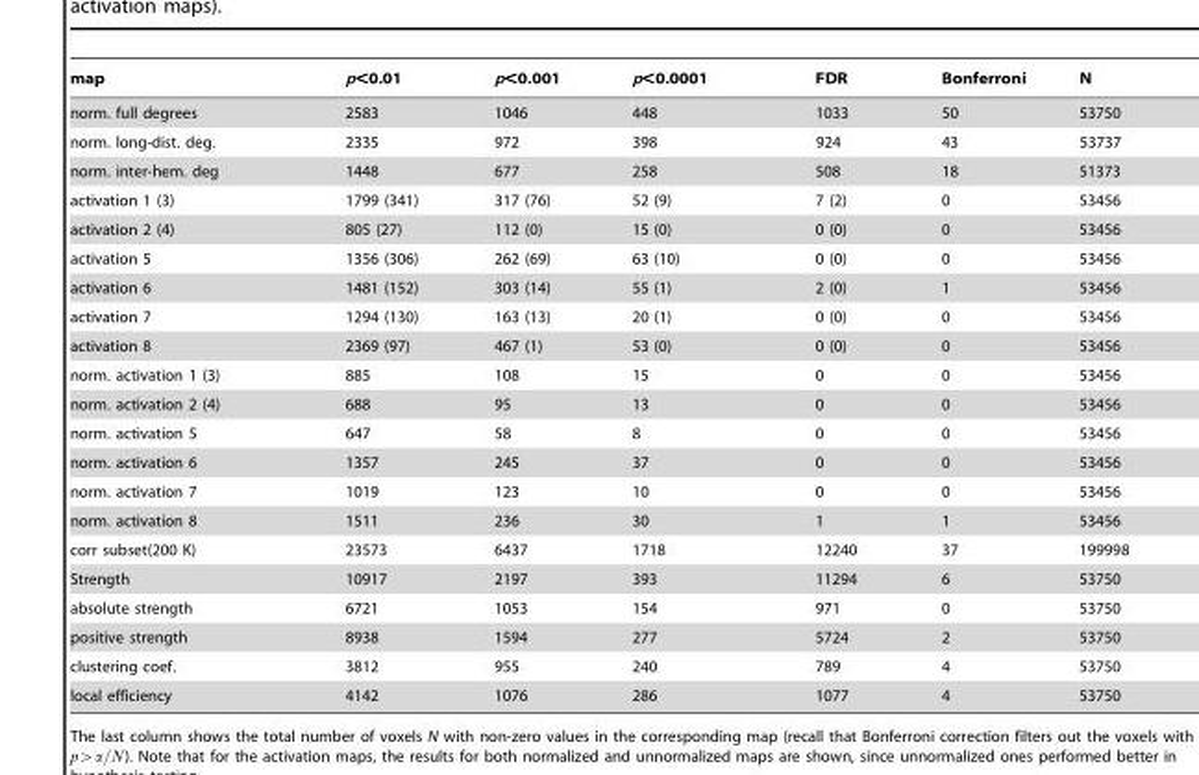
<table><thead><tr><td>map</td><td>p&lt;0.01</td><td>p&lt;0.001</td><td>p&lt;0.0001</td><td>FDR</td><td>Bonferroni</td><td>N</td></tr></thead><tbody><tr><td>norm. full degrees</td><td>2583</td><td>1046</td><td>448</td><td>1033</td><td>50</td><td>53750</td></tr><tr><td>norm. long-dist. deg.</td><td>2335</td><td>972</td><td>398</td><td>924</td><td>43</td><td>53737</td></tr><tr><td>norm. inter-hem. deg</td><td>1448</td><td>677</td><td>258</td><td>508</td><td>18</td><td>51373</td></tr><tr><td>activation 1 (3)</td><td>1799 (341)</td><td>317 (76)</td><td>52 (9)</td><td>7 (2)</td><td>0</td><td>53456</td></tr><tr><td>activation 2 (4)</td><td>805 (27)</td><td>112 (0)</td><td>15 (0)</td><td>0 (0)</td><td>0</td><td>53456</td></tr><tr><td>activation 5</td><td>1356 (306)</td><td>262 (69)</td><td>63 (10)</td><td>0 (0)</td><td>0</td><td>53456</td></tr><tr><td>activation 6</td><td>1481 (152)</td><td>303 (14)</td><td>55 (1)</td><td>2 (0)</td><td>1</td><td>53456</td></tr><tr><td>activation 7</td><td>1294 (130)</td><td>163 (13)</td><td>20 (1)</td><td>0 (0)</td><td>0</td><td>53456</td></tr><tr><td>activation 8</td><td>2369 (97)</td><td>467 (1)</td><td>53 (0)</td><td>0 (0)</td><td>0</td><td>53456</td></tr><tr><td>norm. activation 1 (3)</td><td>885</td><td>108</td><td>15</td><td>0</td><td>0</td><td>53456</td></tr><tr><td>norm. activation 2 (4)</td><td>688</td><td>95</td><td>13</td><td>0</td><td>0</td><td>53456</td></tr><tr><td>norm. activation 5</td><td>647</td><td>58</td><td>8</td><td>0</td><td>0</td><td>53456</td></tr><tr><td>norm. activation 6</td><td>1357</td><td>245</td><td>37</td><td>0</td><td>0</td><td>53456</td></tr><tr><td>norm. activation 7</td><td>1019</td><td>123</td><td>10</td><td>0</td><td>0</td><td>53456</td></tr><tr><td>norm. activation 8</td><td>1511</td><td>236</td><td>30</td><td>1</td><td>1</td><td>53456</td></tr><tr><td>corr subset(200 K)</td><td>23573</td><td>6437</td><td>1718</td><td>12240</td><td>37</td><td>199998</td></tr><tr><td>Strength</td><td>10917</td><td>2197</td><td>393</td><td>11294</td><td>6</td><td>53750</td></tr><tr><td>absolute strength</td><td>6721</td><td>1053</td><td>154</td><td>971</td><td>0</td><td>53750</td></tr><tr><td>positive strength</td><td>8938</td><td>1594</td><td>277</td><td>5724</td><td>2</td><td>53750</td></tr><tr><td>clustering coef.</td><td>3812</td><td>955</td><td>240</td><td>789</td><td>4</td><td>53750</td></tr><tr><td>local efficiency</td><td>4142</td><td>1076</td><td>286</td><td>1077</td><td>4</td><td>53750</td></tr></tbody></table>